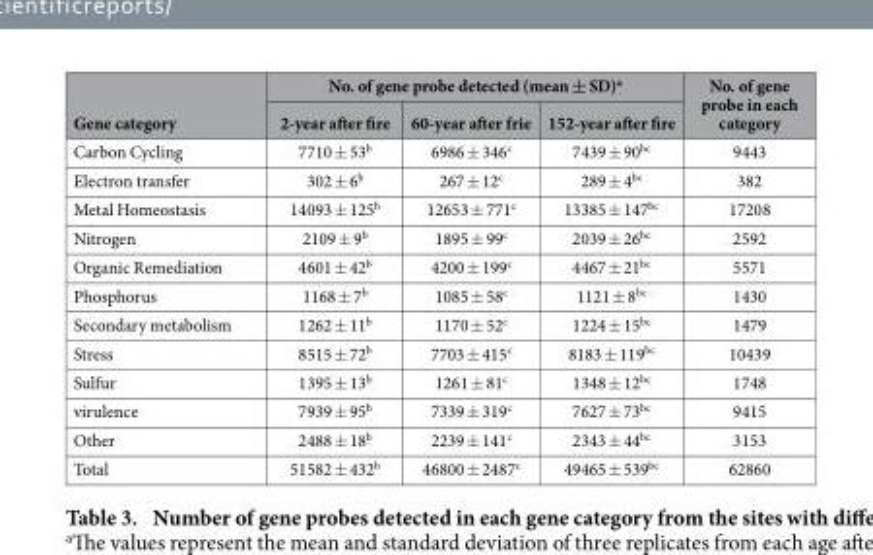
<table><thead><tr><td rowspan="2">Gene category</td><td colspan="3">No. of gene probe detected (mean ± SD)<sup>a</sup></td><td rowspan="2">No. of gene probe in each category</td></tr><tr><td>2-year after fire</td><td>60-year after frie</td><td>152-year after fire</td></tr></thead><tbody><tr><td>Carbon Cycling</td><td>7710 ± 53<sup>b</sup></td><td>6986 ± 346<sup>c</sup></td><td>7439 ± 90<sup>bc</sup></td><td>9443</td></tr><tr><td>Electron transfer</td><td>302 ± 6<sup>b</sup></td><td>267 ± 12<sup>c</sup></td><td>289 ± 4<sup>bc</sup></td><td>382</td></tr><tr><td>Metal Homeostasis</td><td>14093 ± 125<sup>b</sup></td><td>12653 ± 771<sup>c</sup></td><td>13385 ± 147<sup>bc</sup></td><td>17208</td></tr><tr><td>Nitrogen</td><td>2109 ± 9<sup>b</sup></td><td>1895 ± 99<sup>c</sup></td><td>2039 ± 26<sup>bc</sup></td><td>2592</td></tr><tr><td>Organic Remediation</td><td>4601 ± 42<sup>b</sup></td><td>4200 ± 199<sup>c</sup></td><td>4467 ± 21<sup>bc</sup></td><td>5571</td></tr><tr><td>Phosphorus</td><td>1168 ± 7<sup>b</sup></td><td>1085 ± 58<sup>c</sup></td><td>1121 ± 8<sup>bc</sup></td><td>1430</td></tr><tr><td>Secondary metabolism</td><td>1262 ± 11<sup>b</sup></td><td>1170 ± 52<sup>c</sup></td><td>1224 ± 15<sup>bc</sup></td><td>1479</td></tr><tr><td>Stress</td><td>8515 ± 72<sup>b</sup></td><td>7703 ± 415<sup>c</sup></td><td>8183 ± 119<sup>bc</sup></td><td>10439</td></tr><tr><td>Sulfur</td><td>1395 ± 13<sup>b</sup></td><td>1261 ± 81<sup>c</sup></td><td>1348 ± 12<sup>bc</sup></td><td>1748</td></tr><tr><td>virulence</td><td>7939 ± 95<sup>b</sup></td><td>7339 ± 319<sup>c</sup></td><td>7627 ± 73<sup>bc</sup></td><td>9415</td></tr><tr><td>Other</td><td>2488 ± 18<sup>b</sup></td><td>2239 ± 141<sup>c</sup></td><td>2343 ± 44<sup>bc</sup></td><td>3153</td></tr><tr><td>Total</td><td>51582 ± 432<sup>b</sup></td><td>46800 ± 2487<sup>c</sup></td><td>49465 ± 539<sup>bc</sup></td><td>62860</td></tr></tbody></table>